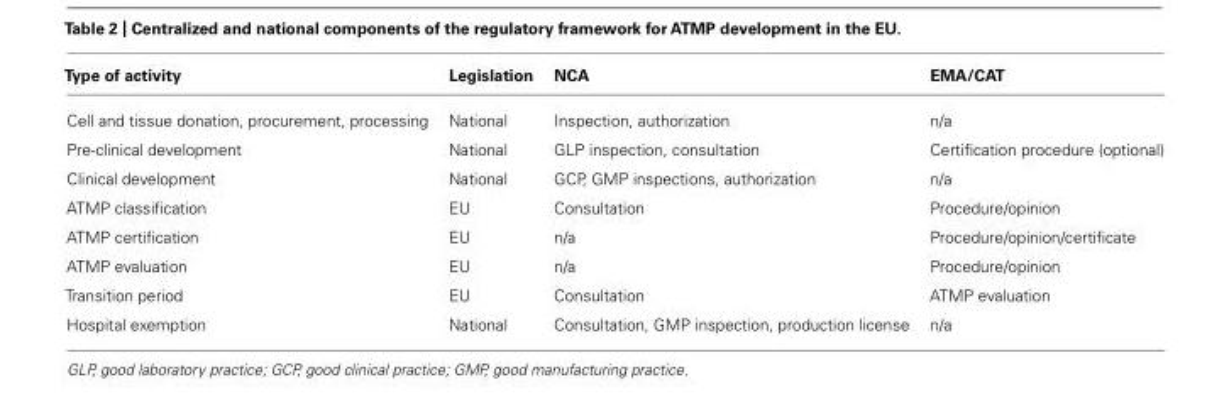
<table><thead><tr><td>Type of activity</td><td>Legislation</td><td>NCA</td><td>EMA/CAT</td></tr></thead><tbody><tr><td>Cell and tissue donation, procurement, processing</td><td>National</td><td>Inspection, authorization</td><td>n/a</td></tr><tr><td>Pre-clinical development</td><td>National</td><td>GLP inspection, consultation</td><td>Certification procedure (optional)</td></tr><tr><td>Clinical development</td><td>National</td><td>GCP, GMP inspections, authorization</td><td>n/a</td></tr><tr><td>ATMP classification</td><td>EU</td><td>Consultation</td><td>Procedure/opinion</td></tr><tr><td>ATMP certification</td><td>EU</td><td>n/a</td><td>Procedure/opinion/certificate</td></tr><tr><td>ATMP evaluation</td><td>EU</td><td>n/a</td><td>Procedure/opinion</td></tr><tr><td>Transition period</td><td>EU</td><td>Consultation</td><td>ATMP evaluation</td></tr><tr><td>Hospital exemption</td><td>National</td><td>Consultation, GMP inspection, production license</td><td>n/a</td></tr></tbody></table>